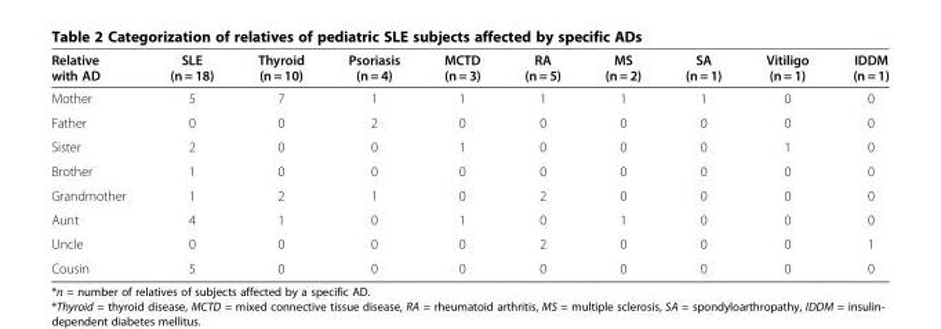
<table><thead><tr><td>Relative with AD</td><td>SLE (n = 18)</td><td>Thyroid (n = 10)</td><td>Psoriasis (n = 4)</td><td>MCTD (n = 3)</td><td>RA (n = 5)</td><td>MS (n = 2)</td><td>SA (n = 1)</td><td>Vitiligo (n = 1)</td><td>IDDM (n = 1)</td></tr></thead><tbody><tr><td>Mother</td><td>5</td><td>7</td><td>1</td><td>1</td><td>1</td><td>1</td><td>1</td><td>0</td><td>0</td></tr><tr><td>Father</td><td>0</td><td>0</td><td>2</td><td>0</td><td>0</td><td>0</td><td>0</td><td>0</td><td>0</td></tr><tr><td>Sister</td><td>2</td><td>0</td><td>0</td><td>1</td><td>0</td><td>0</td><td>0</td><td>1</td><td>0</td></tr><tr><td>Brother</td><td>1</td><td>0</td><td>0</td><td>0</td><td>0</td><td>0</td><td>0</td><td>0</td><td>0</td></tr><tr><td>Grandmother</td><td>1</td><td>2</td><td>1</td><td>0</td><td>2</td><td>0</td><td>0</td><td>0</td><td>0</td></tr><tr><td>Aunt</td><td>4</td><td>1</td><td>0</td><td>1</td><td>0</td><td>1</td><td>0</td><td>0</td><td>0</td></tr><tr><td>Uncle</td><td>0</td><td>0</td><td>0</td><td>0</td><td>2</td><td>0</td><td>0</td><td>0</td><td>1</td></tr><tr><td>Cousin</td><td>5</td><td>0</td><td>0</td><td>0</td><td>0</td><td>0</td><td>0</td><td>0</td><td>0</td></tr></tbody></table>